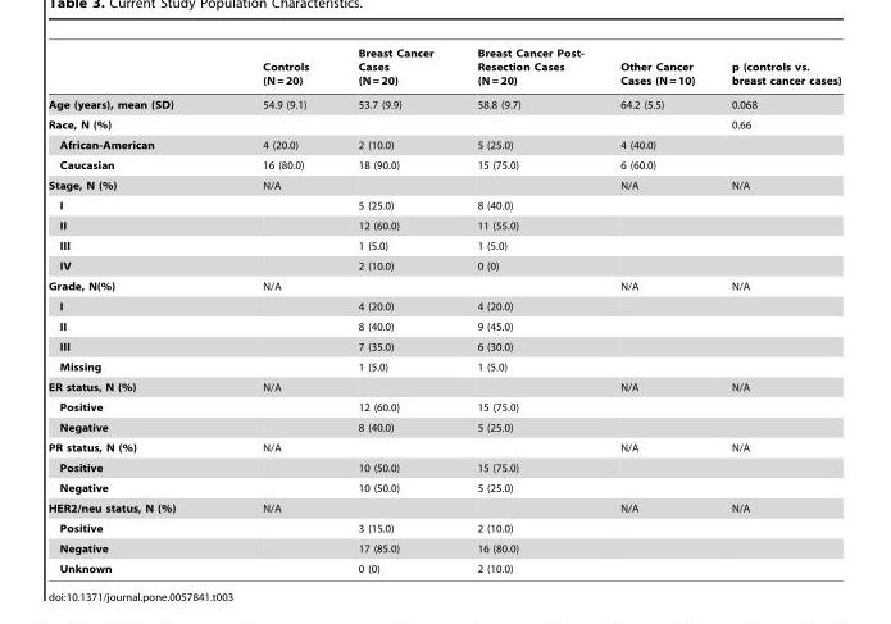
<table><thead><tr><td></td><td>Controls (N = 20)</td><td>Breast Cancer Cases (N = 20)</td><td>Breast Cancer Post- Resection Cases (N = 20)</td><td>Other Cancer Cases (N = 10)</td><td>p (controls vs. breast cancer cases)</td></tr></thead><tbody><tr><td>Age (years), mean (SD)</td><td>54.9 (9.1)</td><td>53.7 (9.9)</td><td>58.8 (9.7)</td><td>64.2 (5.5)</td><td>0.068</td></tr><tr><td>Race, N (%)</td><td></td><td></td><td></td><td></td><td>0.66</td></tr><tr><td>African-American</td><td>4 (20.0)</td><td>2 (10.0)</td><td>5 (25.0)</td><td>4 (40.0)</td><td></td></tr><tr><td>Caucasian</td><td>16 (80.0)</td><td>18 (90.0)</td><td>15 (75.0)</td><td>6 (60.0)</td><td></td></tr><tr><td>Stage, N (%)</td><td>N/A</td><td></td><td></td><td>N/A</td><td>N/A</td></tr><tr><td>I</td><td></td><td>5 (25.0)</td><td>8 (40.0)</td><td></td><td></td></tr><tr><td>II</td><td></td><td>12 (60.0)</td><td>11 (55.0)</td><td></td><td></td></tr><tr><td>III</td><td></td><td>1 (5.0)</td><td>1 (5.0)</td><td></td><td></td></tr><tr><td>IV</td><td></td><td>2 (10.0)</td><td>0 (0)</td><td></td><td></td></tr><tr><td>Grade, N(%)</td><td>N/A</td><td></td><td></td><td>N/A</td><td>N/A</td></tr><tr><td>I</td><td></td><td>4 (20.0)</td><td>4 (20.0)</td><td></td><td></td></tr><tr><td>II</td><td></td><td>8 (40.0)</td><td>9 (45.0)</td><td></td><td></td></tr><tr><td>III</td><td></td><td>7 (35.0)</td><td>6 (30.0)</td><td></td><td></td></tr><tr><td>Missing</td><td></td><td>1 (5.0)</td><td>1 (5.0)</td><td></td><td></td></tr><tr><td>ER status, N (%)</td><td>N/A</td><td></td><td></td><td>N/A</td><td>N/A</td></tr><tr><td>Positive</td><td></td><td>12 (60.0)</td><td>15 (75.0)</td><td></td><td></td></tr><tr><td>Negative</td><td></td><td>8 (40.0)</td><td>5 (25.0)</td><td></td><td></td></tr><tr><td>PR status, N (%)</td><td>N/A</td><td></td><td></td><td>N/A</td><td>N/A</td></tr><tr><td>Positive</td><td></td><td>10 (50.0)</td><td>15 (75.0)</td><td></td><td></td></tr><tr><td>Negative</td><td></td><td>10 (50.0)</td><td>5 (25.0)</td><td></td><td></td></tr><tr><td>HER2/neu status, N (%)</td><td>N/A</td><td></td><td></td><td>N/A</td><td>N/A</td></tr><tr><td>Positive</td><td></td><td>3 (15.0)</td><td>2 (10.0)</td><td></td><td></td></tr><tr><td>Negative</td><td></td><td>17 (85.0)</td><td>16 (80.0)</td><td></td><td></td></tr><tr><td>Unknown</td><td></td><td>0 (0)</td><td>2 (10.0)</td><td></td><td></td></tr></tbody></table>